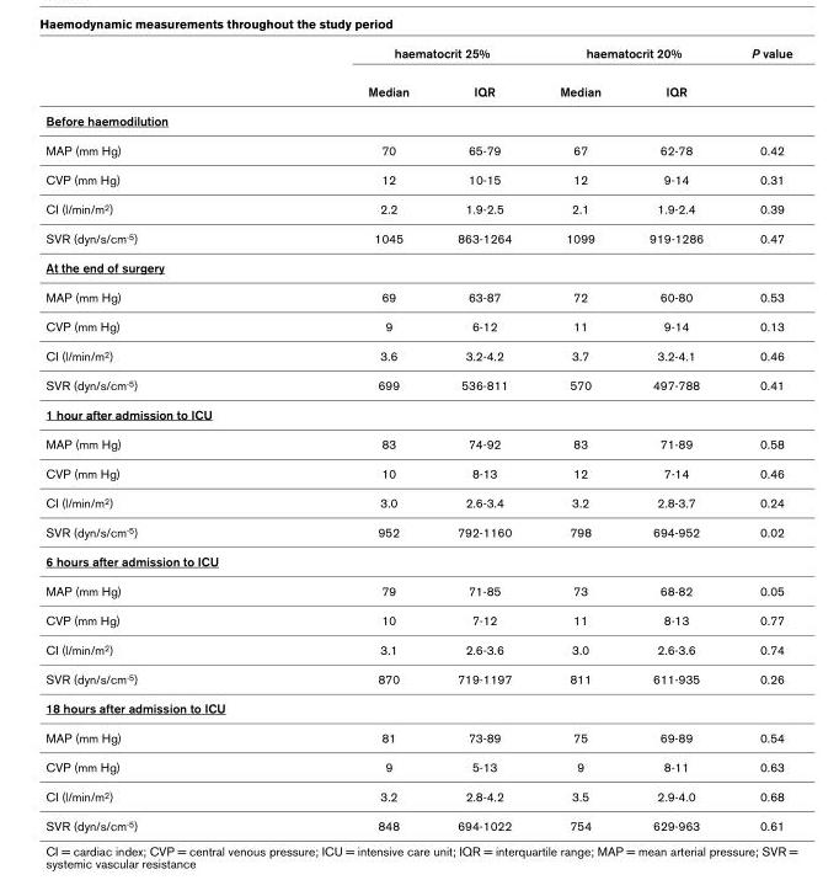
<table><thead><tr><td rowspan="2"></td><td colspan="2">haematocrit 25%</td><td colspan="2">haematocrit 20%</td><td rowspan="2">P value</td></tr><tr><td>Median</td><td>IQR</td><td>Median</td><td>IQR</td></tr></thead><tbody><tr><td colspan="6">Before haemodilution</td></tr><tr><td>MAP (mm Hg)</td><td>70</td><td>65-79</td><td>67</td><td>62-78</td><td>0.42</td></tr><tr><td>CVP (mm Hg)</td><td>12</td><td>10-15</td><td>12</td><td>9-14</td><td>0.31</td></tr><tr><td>CI (l/min/m2)</td><td>2.2</td><td>1.9-2.5</td><td>2.1</td><td>1.9-2.4</td><td>0.39</td></tr><tr><td>SVR (dyn/s/cm-5)</td><td>1045</td><td>863-1264</td><td>1099</td><td>919-1286</td><td>0.47</td></tr><tr><td colspan="6">At the end of surgery</td></tr><tr><td>MAP (mm Hg)</td><td>69</td><td>63-87</td><td>72</td><td>60-80</td><td>0.53</td></tr><tr><td>CVP (mm Hg)</td><td>9</td><td>6-12</td><td>11</td><td>9-14</td><td>0.13</td></tr><tr><td>CI (l/min/m2)</td><td>3.6</td><td>3.2-4.2</td><td>3.7</td><td>3.2-4.1</td><td>0.46</td></tr><tr><td>SVR (dyn/s/cm-5)</td><td>699</td><td>536-811</td><td>570</td><td>497-788</td><td>0.41</td></tr><tr><td colspan="6">1 hour after admission to ICU</td></tr><tr><td>MAP (mm Hg)</td><td>83</td><td>74-92</td><td>83</td><td>71-89</td><td>0.58</td></tr><tr><td>CVP (mm Hg)</td><td>10</td><td>8-13</td><td>12</td><td>7-14</td><td>0.46</td></tr><tr><td>CI (l/min/m2)</td><td>3.0</td><td>2.6-3.4</td><td>3.2</td><td>2.8-3.7</td><td>0.24</td></tr><tr><td>SVR (dyn/s/cm-5)</td><td>952</td><td>792-1160</td><td>798</td><td>694-952</td><td>0.02</td></tr><tr><td colspan="6">6 hours after admission to ICU</td></tr><tr><td>MAP (mm Hg)</td><td>79</td><td>71-85</td><td>73</td><td>68-82</td><td>0.05</td></tr><tr><td>CVP (mm Hg)</td><td>10</td><td>7-12</td><td>11</td><td>8-13</td><td>0.77</td></tr><tr><td>CI (l/min/m2)</td><td>3.1</td><td>2.6-3.6</td><td>3.0</td><td>2.6-3.6</td><td>0.74</td></tr><tr><td>SVR (dyn/s/cm-5)</td><td>870</td><td>719-1197</td><td>811</td><td>611-935</td><td>0.26</td></tr><tr><td colspan="6">18 hours after admission to ICU</td></tr><tr><td>MAP (mm Hg)</td><td>81</td><td>73-89</td><td>75</td><td>69-89</td><td>0.54</td></tr><tr><td>CVP (mm Hg)</td><td>9</td><td>5-13</td><td>9</td><td>8-11</td><td>0.63</td></tr><tr><td>CI (l/min/m2)</td><td>3.2</td><td>2.8-4.2</td><td>3.5</td><td>2.9-4.0</td><td>0.68</td></tr><tr><td>SVR (dyn/s/cm-5)</td><td>848</td><td>694-1022</td><td>754</td><td>629-963</td><td>0.61</td></tr></tbody></table>